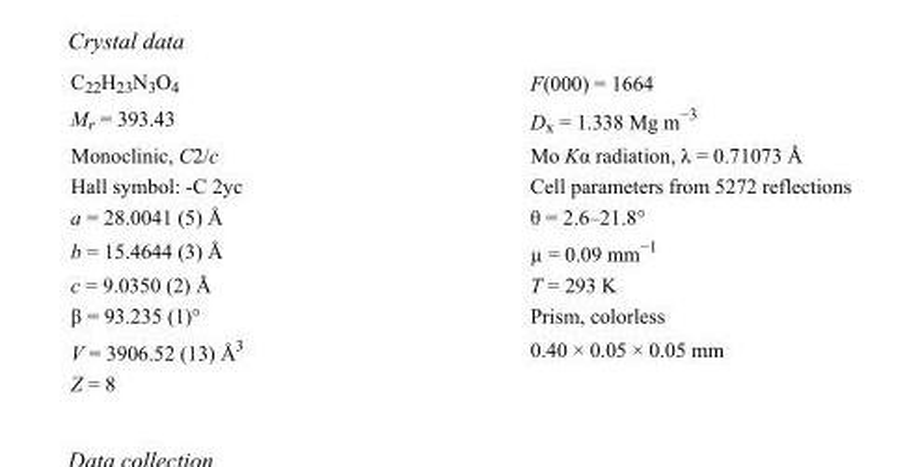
<table><tbody><tr><td>C<sub>22</sub>H<sub>23</sub>N<sub>3</sub>O<sub>4</sub></td><td>F(000) = 1664</td></tr><tr><td>M<sub>r</sub> = 393.43</td><td>D<sub>x</sub> = 1.338 Mg m<sup>−3</sup></td></tr><tr><td>Monoclinic, C2/c</td><td>Mo Kα radiation, λ = 0.71073 Å</td></tr><tr><td>Hall symbol: -C 2yc</td><td>Cell parameters from 5272 reflections</td></tr><tr><td>a = 28.0041 (5) Å</td><td>θ = 2.6–21.8°</td></tr><tr><td>b = 15.4644 (3) Å</td><td>µ = 0.09 mm<sup>−1</sup></td></tr><tr><td>c = 9.0350 (2) Å</td><td>T = 293 K</td></tr><tr><td>β = 93.235 (1)°</td><td>Prism, colorless</td></tr><tr><td>V = 3906.52 (13) Å<sup>3</sup></td><td>0.40 × 0.05 × 0.05 mm</td></tr><tr><td>Z = 8</td><td></td></tr></tbody></table>